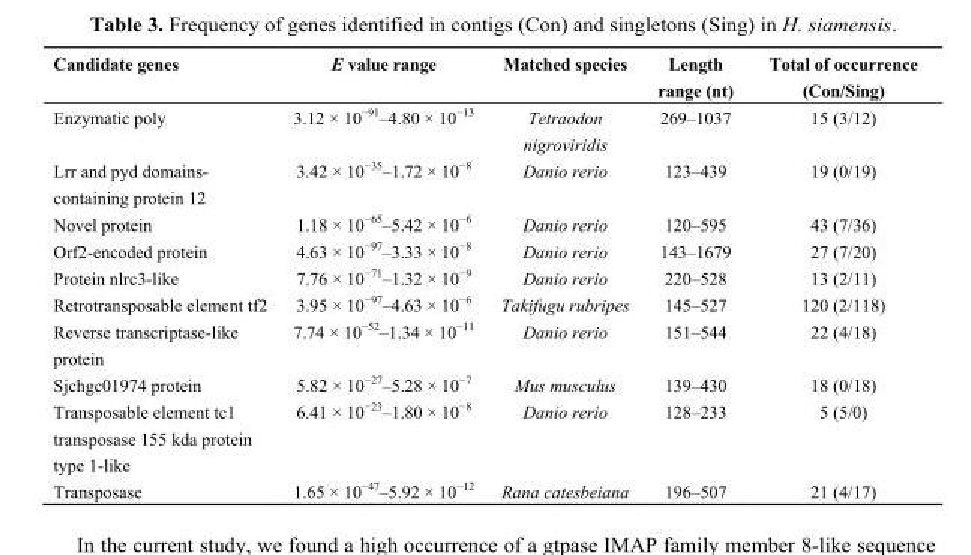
<table><thead><tr><td>Candidate genes</td><td>E value range</td><td>Matched species</td><td>Length range (nt)</td><td>Total of occurrence (Con/Sing)</td></tr></thead><tbody><tr><td>Enzymatic poly</td><td>3.12 × 10<sup>−91</sup>–4.80 × 10<sup>−13</sup></td><td>Tetraodon nigroviridis</td><td>269–1037</td><td>15 (3/12)</td></tr><tr><td>Lrr and pyd domains- containing protein 12</td><td>3.42 × 10<sup>−35</sup>–1.72 × 10<sup>−8</sup></td><td>Danio rerio</td><td>123–439</td><td>19 (0/19)</td></tr><tr><td>Novel protein</td><td>1.18 × 10<sup>−65</sup>–5.42 × 10<sup>−6</sup></td><td>Danio rerio</td><td>120–595</td><td>43 (7/36)</td></tr><tr><td>Orf2-encoded protein</td><td>4.63 × 10<sup>−97</sup>–3.33 × 10<sup>−8</sup></td><td>Danio rerio</td><td>143–1679</td><td>27 (7/20)</td></tr><tr><td>Protein nlrc3-like</td><td>7.76 × 10<sup>−71</sup>–1.32 × 10<sup>−9</sup></td><td>Danio rerio</td><td>220–528</td><td>13 (2/11)</td></tr><tr><td>Retrotransposable element tf2</td><td>3.95 × 10<sup>−97</sup>–4.63 × 10<sup>−6</sup></td><td>Takifugu rubripes</td><td>145–527</td><td>120 (2/118)</td></tr><tr><td>Reverse transcriptase-like protein</td><td>7.74 × 10<sup>−52</sup>–1.34 × 10<sup>−11</sup></td><td>Danio rerio</td><td>151–544</td><td>22 (4/18)</td></tr><tr><td>Sjchgc01974 protein</td><td>5.82 × 10<sup>−27</sup>–5.28 × 10<sup>−7</sup></td><td>Mus musculus</td><td>139–430</td><td>18 (0/18)</td></tr><tr><td>Transposable element tc1 transposase 155 kda protein type 1-like</td><td>6.41 × 10<sup>−23</sup>–1.80 × 10<sup>−8</sup></td><td>Danio rerio</td><td>128–233</td><td>5 (5/0)</td></tr><tr><td>Transposase</td><td>1.65 × 10<sup>−47</sup>–5.92 × 10<sup>−12</sup></td><td>Rana catesbeiana</td><td>196–507</td><td>21 (4/17)</td></tr></tbody></table>